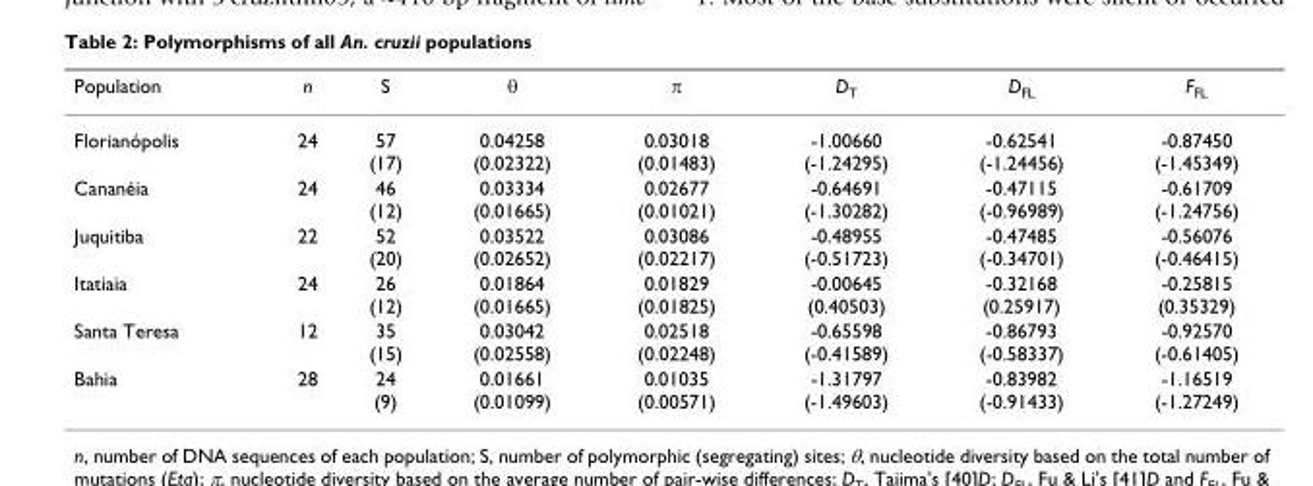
<table><thead><tr><td>Population</td><td>n</td><td>S</td><td>θ</td><td>π</td><td>D<sub>T</sub></td><td>D<sub>FL</sub></td><td>F<sub>FL</sub></td></tr></thead><tbody><tr><td>Florianópolis</td><td>24</td><td>57 (17)</td><td>0.04258 (0.02322)</td><td>0.03018 (0.01483)</td><td>-1.00660 (-1.24295)</td><td>-0.62541 (-1.24456)</td><td>-0.87450 (-1.45349)</td></tr><tr><td>Cananéia</td><td>24</td><td>46 (12)</td><td>0.03334 (0.01665)</td><td>0.02677 (0.01021)</td><td>-0.64691 (-1.30282)</td><td>-0.47115 (-0.96989)</td><td>-0.61709 (-1.24756)</td></tr><tr><td>Juquitiba</td><td>22</td><td>52 (20)</td><td>0.03522 (0.02652)</td><td>0.03086 (0.02217)</td><td>-0.48955 (-0.51723)</td><td>-0.47485 (-0.34701)</td><td>-0.56076 (-0.46415)</td></tr><tr><td>Itatiaia</td><td>24</td><td>26 (12)</td><td>0.01864 (0.01665)</td><td>0.01829 (0.01825)</td><td>-0.00645 (0.40503)</td><td>-0.32168 (0.25917)</td><td>-0.25815 (0.35329)</td></tr><tr><td>Santa Teresa</td><td>12</td><td>35 (15)</td><td>0.03042 (0.02558)</td><td>0.02518 (0.02248)</td><td>-0.65598 (-0.41589)</td><td>-0.86793 (-0.58337)</td><td>-0.92570 (-0.61405)</td></tr><tr><td>Bahia</td><td>28</td><td>24 (9)</td><td>0.01661 (0.01099)</td><td>0.01035 (0.00571)</td><td>-1.31797 (-1.49603)</td><td>-0.83982 (-0.91433)</td><td>-1.16519 (-1.27249)</td></tr></tbody></table>